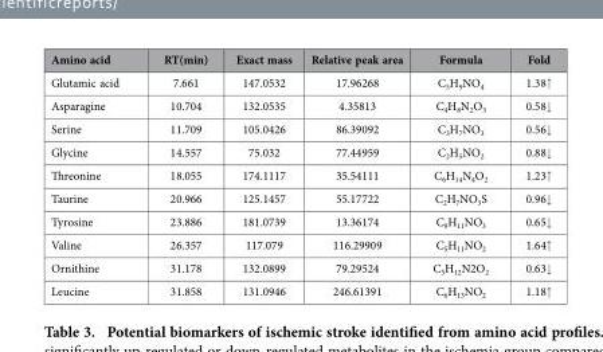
<table><thead><tr><td>Amino acid</td><td>RT(min)</td><td>Exact mass</td><td>Relative peak area</td><td>Formula</td><td>Fold</td></tr></thead><tbody><tr><td>Glutamic acid</td><td>7.661</td><td>147.0532</td><td>17.96268</td><td>C<sub>5</sub>H<sub>9</sub>NO<sub>4</sub></td><td>1.38↑</td></tr><tr><td>Asparagine</td><td>10.704</td><td>132.0535</td><td>4.35813</td><td>C<sub>4</sub>H<sub>8</sub>N<sub>2</sub>O<sub>3</sub></td><td>0.58↓</td></tr><tr><td>Serine</td><td>11.709</td><td>105.0426</td><td>86.39092</td><td>C<sub>3</sub>H<sub>7</sub>NO<sub>3</sub></td><td>0.56↓</td></tr><tr><td>Glycine</td><td>14.557</td><td>75.032</td><td>77.44959</td><td>C<sub>2</sub>H<sub>5</sub>NO<sub>2</sub></td><td>0.88↓</td></tr><tr><td>Threonine</td><td>18.055</td><td>174.1117</td><td>35.54111</td><td>C<sub>6</sub>H<sub>14</sub>N<sub>4</sub>O<sub>2</sub></td><td>1.23↑</td></tr><tr><td>Taurine</td><td>20.966</td><td>125.1457</td><td>55.17722</td><td>C<sub>2</sub>H<sub>7</sub>NO<sub>3</sub>S</td><td>0.96↓</td></tr><tr><td>Tyrosine</td><td>23.886</td><td>181.0739</td><td>13.36174</td><td>C<sub>9</sub>H<sub>11</sub>NO<sub>3</sub></td><td>0.65↓</td></tr><tr><td>Valine</td><td>26.357</td><td>117.079</td><td>116.29909</td><td>C<sub>5</sub>H<sub>11</sub>NO<sub>2</sub></td><td>1.64↑</td></tr><tr><td>Ornithine</td><td>31.178</td><td>132.0899</td><td>79.29524</td><td>C<sub>5</sub>H<sub>12</sub>N2O<sub>2</sub></td><td>0.63↓</td></tr><tr><td>Leucine</td><td>31.858</td><td>131.0946</td><td>246.61391</td><td>C<sub>6</sub>H<sub>13</sub>NO<sub>2</sub></td><td>1.18↑</td></tr></tbody></table>